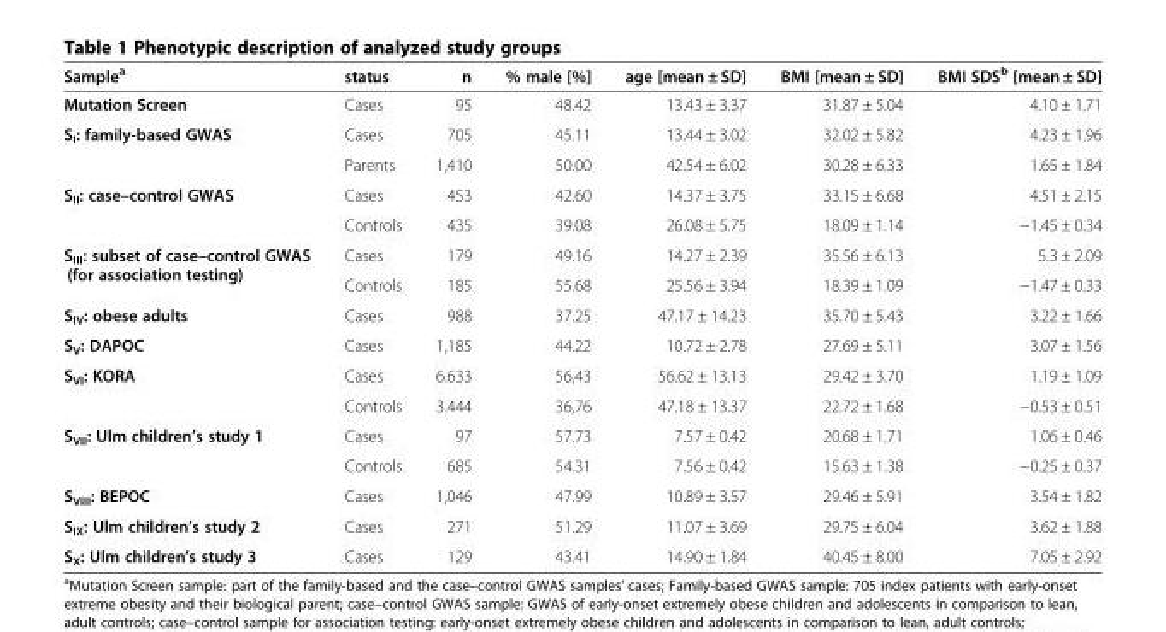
<table><thead><tr><td>Sample<sup>a</sup></td><td>status</td><td>n</td><td>% male [%]</td><td>age [mean ± SD]</td><td>BMI [mean ± SD]</td><td>BMI SDS<sup>b</sup> [mean ± SD]</td></tr></thead><tbody><tr><td>Mutation Screen</td><td>Cases</td><td>95</td><td>48.42</td><td>13.43 ± 3.37</td><td>31.87 ± 5.04</td><td>4.10 ± 1.71</td></tr><tr><td rowspan="2">S<sub>I</sub>: family-based GWAS</td><td>Cases</td><td>705</td><td>45.11</td><td>13.44 ± 3.02</td><td>32.02 ± 5.82</td><td>4.23 ± 1.96</td></tr><tr><td>Parents</td><td>1,410</td><td>50.00</td><td>42.54 ± 6.02</td><td>30.28 ± 6.33</td><td>1.65 ± 1.84</td></tr><tr><td rowspan="2">S<sub>II</sub>: case–control GWAS</td><td>Cases</td><td>453</td><td>42.60</td><td>14.37 ± 3.75</td><td>33.15 ± 6.68</td><td>4.51 ± 2.15</td></tr><tr><td>Controls</td><td>435</td><td>39.08</td><td>26.08 ± 5.75</td><td>18.09 ± 1.14</td><td>−1.45 ± 0.34</td></tr><tr><td rowspan="2">S<sub>III</sub>: subset of case–control GWAS (for association testing)</td><td>Cases</td><td>179</td><td>49.16</td><td>14.27 ± 2.39</td><td>35.56 ± 6.13</td><td>5.3 ± 2.09</td></tr><tr><td>Controls</td><td>185</td><td>55.68</td><td>25.56 ± 3.94</td><td>18.39 ± 1.09</td><td>−1.47 ± 0.33</td></tr><tr><td>S<sub>IV</sub>: obese adults</td><td>Cases</td><td>988</td><td>37.25</td><td>47.17 ± 14.23</td><td>35.70 ± 5.43</td><td>3.22 ± 1.66</td></tr><tr><td>S<sub>V</sub>: DAPOC</td><td>Cases</td><td>1,185</td><td>44.22</td><td>10.72 ± 2.78</td><td>27.69 ± 5.11</td><td>3.07 ± 1.56</td></tr><tr><td rowspan="2">S<sub>VI</sub>: KORA</td><td>Cases</td><td>6.633</td><td>56,43</td><td>56.62 ± 13.13</td><td>29.42 ± 3.70</td><td>1.19 ± 1.09</td></tr><tr><td>Controls</td><td>3.444</td><td>36,76</td><td>47.18 ± 13.37</td><td>22.72 ± 1.68</td><td>−0.53 ± 0.51</td></tr><tr><td rowspan="2">S<sub>VII</sub>: Ulm children’s study 1</td><td>Cases</td><td>97</td><td>57.73</td><td>7.57 ± 0.42</td><td>20.68 ± 1.71</td><td>1.06 ± 0.46</td></tr><tr><td>Controls</td><td>685</td><td>54.31</td><td>7.56 ± 0.42</td><td>15.63 ± 1.38</td><td>−0.25 ± 0.37</td></tr><tr><td>S<sub>VIII</sub>: BEPOC</td><td>Cases</td><td>1,046</td><td>47.99</td><td>10.89 ± 3.57</td><td>29.46 ± 5.91</td><td>3.54 ± 1.82</td></tr><tr><td>S<sub>IX</sub>: Ulm children’s study 2</td><td>Cases</td><td>271</td><td>51.29</td><td>11.07 ± 3.69</td><td>29.75 ± 6.04</td><td>3.62 ± 1.88</td></tr><tr><td>S<sub>X</sub>: Ulm children’s study 3</td><td>Cases</td><td>129</td><td>43.41</td><td>14.90 ± 1.84</td><td>40.45 ± 8.00</td><td>7.05 ± 2.92</td></tr></tbody></table>